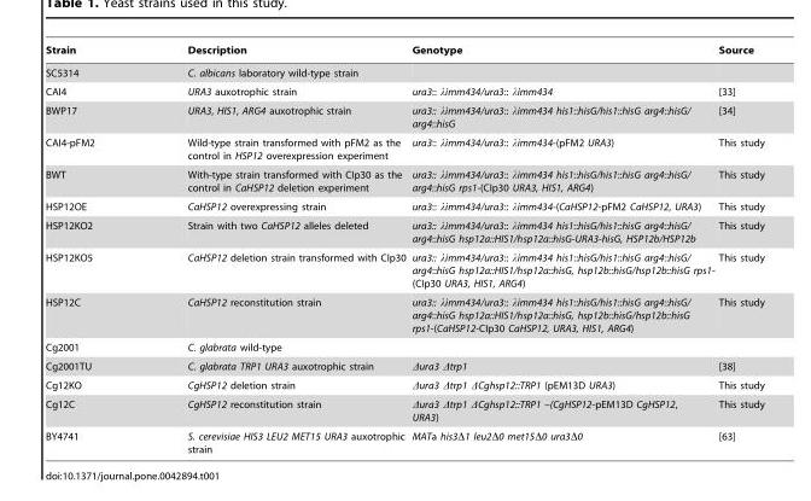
<table><thead><tr><td>Strain</td><td>Description</td><td>Genotype</td><td>Source</td></tr></thead><tbody><tr><td>SC5314</td><td>C. albicans laboratory wild-type strain</td><td></td><td></td></tr><tr><td>CAI4</td><td>URA3 auxotrophic strain</td><td>ura3:: λimm434/ura3:: λimm434</td><td>[33]</td></tr><tr><td>BWP17</td><td>URA3, HIS1, ARG4 auxotrophic strain</td><td>ura3:: λimm434/ura3:: λimm434 his1::hisG/his1::hisG arg4::hisG/ arg4::hisG</td><td>[34]</td></tr><tr><td>CAI4-pFM2</td><td>Wild-type strain transformed with pFM2 as the control in HSP12 overexpression experiment</td><td>ura3:: λimm434/ura3:: λimm434-(pFM2 URA3)</td><td>This study</td></tr><tr><td>BWT</td><td>With-type strain transformed with CIp30 as the control in CaHSP12 deletion experiment</td><td>ura3:: λimm434/ura3:: λimm434 his1::hisG/his1::hisG arg4::hisG/ arg4::hisG rps1-(CIp30 URA3, HIS1, ARG4)</td><td>This study</td></tr><tr><td>HSP12OE</td><td>CaHSP12 overexpressing strain</td><td>ura3:: λimm434/ura3:: λimm434-(CaHSP12-pFM2 CaHSP12, URA3)</td><td>This study</td></tr><tr><td>HSP12KO2</td><td>Strain with two CaHSP12 alleles deleted</td><td>ura3:: λimm434/ura3:: λimm434 his1::hisG/his1::hisG arg4::hisG/ arg4::hisG hsp12a::HIS1/hsp12a::hisG-URA3-hisG, HSP12b/HSP12b</td><td>This study</td></tr><tr><td>HSP12KO5</td><td>CaHSP12 deletion strain transformed with CIp30</td><td>ura3:: λimm434/ura3:: λimm434 his1::hisG/his1::hisG arg4::hisG/ arg4::hisG hsp12a::HIS1/hsp12a::hisG, hsp12b::hisG/hsp12b::hisG rps1- (CIp30 URA3, HIS1, ARG4)</td><td>This study</td></tr><tr><td>HSP12C</td><td>CaHSP12 reconstitution strain</td><td>ura3:: λimm434/ura3:: λimm434 his1::hisG/his1::hisG arg4::hisG/ arg4::hisG hsp12a::HIS1/hsp12a::hisG, hsp12b::hisG/hsp12b::hisG rps1-(CaHSP12-CIp30 CaHSP12, URA3, HIS1, ARG4)</td><td>This study</td></tr><tr><td>Cg2001</td><td>C. glabrata wild-type</td><td></td><td></td></tr><tr><td>Cg2001TU</td><td>C. glabrata TRP1 URA3 auxotrophic strain</td><td>Δura3 Δtrp1</td><td>[38]</td></tr><tr><td>Cg12KO</td><td>CgHSP12 deletion strain</td><td>Δura3 Δtrp1 ΔCghsp12::TRP1 (pEM13D URA3)</td><td>This study</td></tr><tr><td>Cg12C</td><td>CgHSP12 reconstitution strain</td><td>Δura3 Δtrp1 ΔCghsp12::TRP1 –(CgHSP12-pEM13D CgHSP12, URA3)</td><td>This study</td></tr><tr><td>BY4741</td><td>S. cerevisiae HIS3 LEU2 MET15 URA3 auxotrophic strain</td><td>MATa his3Δ1 leu2Δ0 met15Δ0 ura3Δ0</td><td>[63]</td></tr></tbody></table>